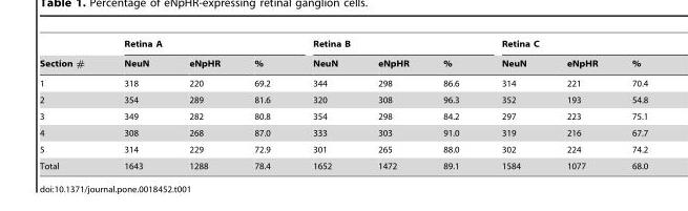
<table><thead><tr><td rowspan="2">Section #</td><td colspan="3">Retina A</td><td colspan="3">Retina B</td><td colspan="3">Retina C</td></tr><tr><td>NeuN</td><td>eNpHR</td><td>%</td><td>NeuN</td><td>eNpHR</td><td>%</td><td>NeuN</td><td>eNpHR</td><td>%</td></tr></thead><tbody><tr><td>1</td><td>318</td><td>220</td><td>69.2</td><td>344</td><td>298</td><td>86.6</td><td>314</td><td>221</td><td>70.4</td></tr><tr><td>2</td><td>354</td><td>289</td><td>81.6</td><td>320</td><td>308</td><td>96.3</td><td>352</td><td>193</td><td>54.8</td></tr><tr><td>3</td><td>349</td><td>282</td><td>80.8</td><td>354</td><td>298</td><td>84.2</td><td>297</td><td>223</td><td>75.1</td></tr><tr><td>4</td><td>308</td><td>268</td><td>87.0</td><td>333</td><td>303</td><td>91.0</td><td>319</td><td>216</td><td>67.7</td></tr><tr><td>5</td><td>314</td><td>229</td><td>72.9</td><td>301</td><td>265</td><td>88.0</td><td>302</td><td>224</td><td>74.2</td></tr><tr><td>Total</td><td>1643</td><td>1288</td><td>78.4</td><td>1652</td><td>1472</td><td>89.1</td><td>1584</td><td>1077</td><td>68.0</td></tr></tbody></table>